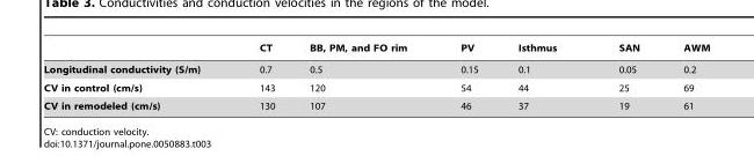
<table><thead><tr><td></td><td>CT</td><td>BB, PM, and FO rim</td><td>PV</td><td>Isthmus</td><td>SAN</td><td>AWM</td></tr></thead><tbody><tr><td>Longitudinal conductivity (S/m)</td><td>0.7</td><td>0.5</td><td>0.15</td><td>0.1</td><td>0.05</td><td>0.2</td></tr><tr><td>CV in control (cm/s)</td><td>143</td><td>120</td><td>54</td><td>44</td><td>25</td><td>69</td></tr><tr><td>CV in remodeled (cm/s)</td><td>130</td><td>107</td><td>46</td><td>37</td><td>19</td><td>61</td></tr></tbody></table>